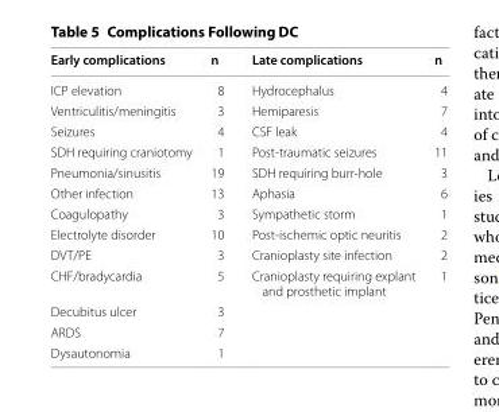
<table><thead><tr><td>Early complications</td><td>n</td><td>Late complications</td><td>n</td></tr></thead><tbody><tr><td>ICP elevation</td><td>8</td><td>Hydrocephalus</td><td>4</td></tr><tr><td>Ventriculitis/meningitis</td><td>3</td><td>Hemiparesis</td><td>7</td></tr><tr><td>Seizures</td><td>4</td><td>CSF leak</td><td>4</td></tr><tr><td>SDH requiring craniotomy</td><td>1</td><td>Post-traumatic seizures</td><td>11</td></tr><tr><td>Pneumonia/sinusitis</td><td>19</td><td>SDH requiring burr-hole</td><td>3</td></tr><tr><td>Other infection</td><td>13</td><td>Aphasia</td><td>6</td></tr><tr><td>Coagulopathy</td><td>3</td><td>Sympathetic storm</td><td>1</td></tr><tr><td>Electrolyte disorder</td><td>10</td><td>Post-ischemic optic neuritis</td><td>2</td></tr><tr><td>DVT/PE</td><td>3</td><td>Cranioplasty site infection</td><td>2</td></tr><tr><td>CHF/bradycardia</td><td>5</td><td>Cranioplasty requiring explant and prosthetic implant</td><td>1</td></tr><tr><td>Decubitus ulcer</td><td>3</td><td></td><td></td></tr><tr><td>ARDS</td><td>7</td><td></td><td></td></tr><tr><td>Dysautonomia</td><td>1</td><td></td><td></td></tr></tbody></table>